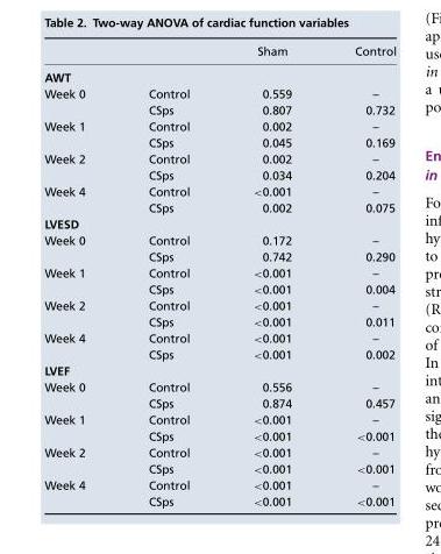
<table><thead><tr><td></td><td></td><td>Sham</td><td>Control</td></tr></thead><tbody><tr><td colspan="4">AWT</td></tr><tr><td rowspan="2">Week 0</td><td>Control</td><td>0.559</td><td>–</td></tr><tr><td>CSps</td><td>0.807</td><td>0.732</td></tr><tr><td rowspan="2">Week 1</td><td>Control</td><td>0.002</td><td>–</td></tr><tr><td>CSps</td><td>0.045</td><td>0.169</td></tr><tr><td rowspan="2">Week 2</td><td>Control</td><td>0.002</td><td>–</td></tr><tr><td>CSps</td><td>0.034</td><td>0.204</td></tr><tr><td rowspan="2">Week 4</td><td>Control</td><td>&lt;0.001</td><td>–</td></tr><tr><td>CSps</td><td>0.002</td><td>0.075</td></tr><tr><td colspan="4">LVESD</td></tr><tr><td rowspan="2">Week 0</td><td>Control</td><td>0.172</td><td>–</td></tr><tr><td>CSps</td><td>0.742</td><td>0.290</td></tr><tr><td rowspan="2">Week 1</td><td>Control</td><td>&lt;0.001</td><td>–</td></tr><tr><td>CSps</td><td>&lt;0.001</td><td>0.004</td></tr><tr><td rowspan="2">Week 2</td><td>Control</td><td>&lt;0.001</td><td>–</td></tr><tr><td>CSps</td><td>&lt;0.001</td><td>0.011</td></tr><tr><td rowspan="2">Week 4</td><td>Control</td><td>&lt;0.001</td><td>–</td></tr><tr><td>CSps</td><td>&lt;0.001</td><td>0.002</td></tr><tr><td colspan="4">LVEF</td></tr><tr><td rowspan="2">Week 0</td><td>Control</td><td>0.556</td><td>–</td></tr><tr><td>CSps</td><td>0.874</td><td>0.457</td></tr><tr><td rowspan="2">Week 1</td><td>Control</td><td>&lt;0.001</td><td>–</td></tr><tr><td>CSps</td><td>&lt;0.001</td><td>&lt;0.001</td></tr><tr><td rowspan="2">Week 2</td><td>Control</td><td>&lt;0.001</td><td>–</td></tr><tr><td>CSps</td><td>&lt;0.001</td><td>&lt;0.001</td></tr><tr><td rowspan="2">Week 4</td><td>Control</td><td>&lt;0.001</td><td>–</td></tr><tr><td>CSps</td><td>&lt;0.001</td><td>&lt;0.001</td></tr></tbody></table>